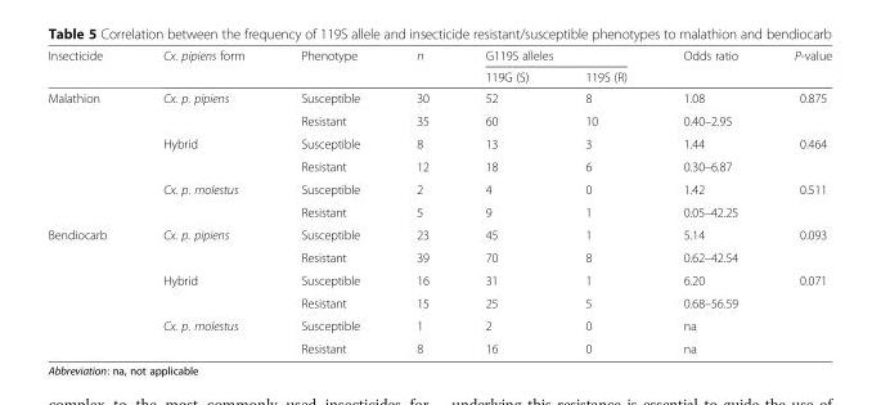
<table><thead><tr><td rowspan="2">Insecticide</td><td rowspan="2">Cx. pipiens form</td><td rowspan="2">Phenotype</td><td rowspan="2">n</td><td colspan="2">G119S alleles</td><td rowspan="2">Odds ratio</td><td rowspan="2">P-value</td></tr><tr><td>119G (S)</td><td>119S (R)</td></tr></thead><tbody><tr><td rowspan="6">Malathion</td><td rowspan="2">Cx. p. pipiens</td><td>Susceptible</td><td>30</td><td>52</td><td>8</td><td>1.08</td><td>0.875</td></tr><tr><td>Resistant</td><td>35</td><td>60</td><td>10</td><td>0.40–2.95</td><td></td></tr><tr><td rowspan="2">Hybrid</td><td>Susceptible</td><td>8</td><td>13</td><td>3</td><td>1.44</td><td>0.464</td></tr><tr><td>Resistant</td><td>12</td><td>18</td><td>6</td><td>0.30–6.87</td><td></td></tr><tr><td rowspan="2">Cx. p. molestus</td><td>Susceptible</td><td>2</td><td>4</td><td>0</td><td>1.42</td><td>0.511</td></tr><tr><td>Resistant</td><td>5</td><td>9</td><td>1</td><td>0.05–42.25</td><td></td></tr><tr><td rowspan="6">Bendiocarb</td><td rowspan="2">Cx. p. pipiens</td><td>Susceptible</td><td>23</td><td>45</td><td>1</td><td>5.14</td><td>0.093</td></tr><tr><td>Resistant</td><td>39</td><td>70</td><td>8</td><td>0.62–42.54</td><td></td></tr><tr><td rowspan="2">Hybrid</td><td>Susceptible</td><td>16</td><td>31</td><td>1</td><td>6.20</td><td>0.071</td></tr><tr><td>Resistant</td><td>15</td><td>25</td><td>5</td><td>0.68–56.59</td><td></td></tr><tr><td rowspan="2">Cx. p. molestus</td><td>Susceptible</td><td>1</td><td>2</td><td>0</td><td>na</td><td></td></tr><tr><td>Resistant</td><td>8</td><td>16</td><td>0</td><td>na</td><td></td></tr></tbody></table>